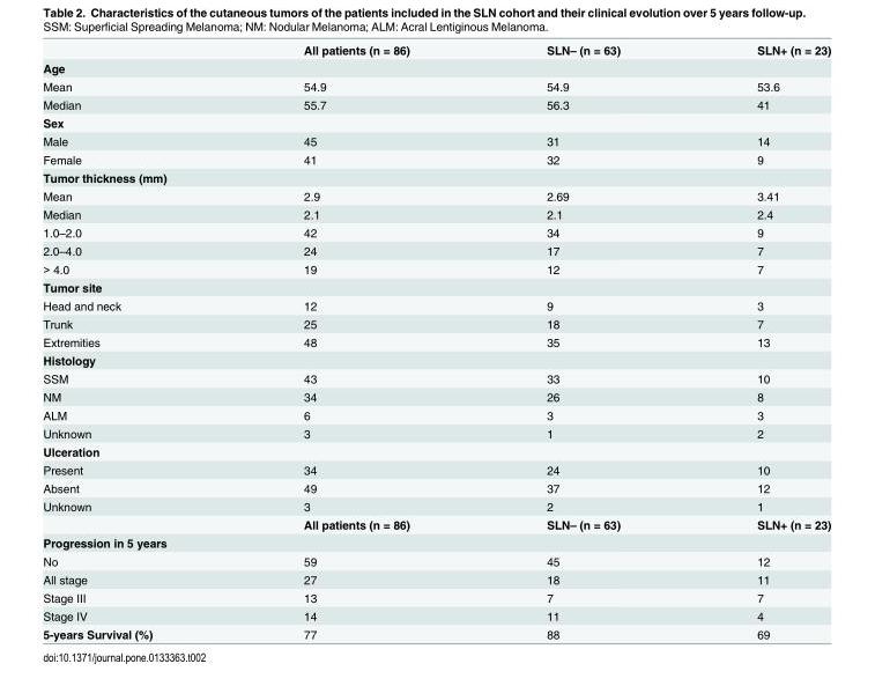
<table><thead><tr><td></td><td>All patients (n = 86)</td><td>SLN– (n = 63)</td><td>SLN+ (n = 23)</td></tr></thead><tbody><tr><td colspan="4">Age</td></tr><tr><td>Mean</td><td>54.9</td><td>54.9</td><td>53.6</td></tr><tr><td>Median</td><td>55.7</td><td>56.3</td><td>41</td></tr><tr><td colspan="4">Sex</td></tr><tr><td>Male</td><td>45</td><td>31</td><td>14</td></tr><tr><td>Female</td><td>41</td><td>32</td><td>9</td></tr><tr><td colspan="4">Tumor thickness (mm)</td></tr><tr><td>Mean</td><td>2.9</td><td>2.69</td><td>3.41</td></tr><tr><td>Median</td><td>2.1</td><td>2.1</td><td>2.4</td></tr><tr><td>1.0–2.0</td><td>42</td><td>34</td><td>9</td></tr><tr><td>2.0–4.0</td><td>24</td><td>17</td><td>7</td></tr><tr><td>&gt; 4.0</td><td>19</td><td>12</td><td>7</td></tr><tr><td colspan="4">Tumor site</td></tr><tr><td>Head and neck</td><td>12</td><td>9</td><td>3</td></tr><tr><td>Trunk</td><td>25</td><td>18</td><td>7</td></tr><tr><td>Extremities</td><td>48</td><td>35</td><td>13</td></tr><tr><td colspan="4">Histology</td></tr><tr><td>SSM</td><td>43</td><td>33</td><td>10</td></tr><tr><td>NM</td><td>34</td><td>26</td><td>8</td></tr><tr><td>ALM</td><td>6</td><td>3</td><td>3</td></tr><tr><td>Unknown</td><td>3</td><td>1</td><td>2</td></tr><tr><td colspan="4">Ulceration</td></tr><tr><td>Present</td><td>34</td><td>24</td><td>10</td></tr><tr><td>Absent</td><td>49</td><td>37</td><td>12</td></tr><tr><td rowspan="2">Unknown</td><td>3</td><td>2</td><td>1</td></tr><tr><td>All patients (n = 86)</td><td>SLN– (n = 63)</td><td>SLN+ (n = 23)</td></tr><tr><td colspan="4">Progression in 5 years</td></tr><tr><td>No</td><td>59</td><td>45</td><td>12</td></tr><tr><td>All stage</td><td>27</td><td>18</td><td>11</td></tr><tr><td>Stage III</td><td>13</td><td>7</td><td>7</td></tr><tr><td>Stage IV</td><td>14</td><td>11</td><td>4</td></tr><tr><td>5-years Survival (%)</td><td>77</td><td>88</td><td>69</td></tr></tbody></table>